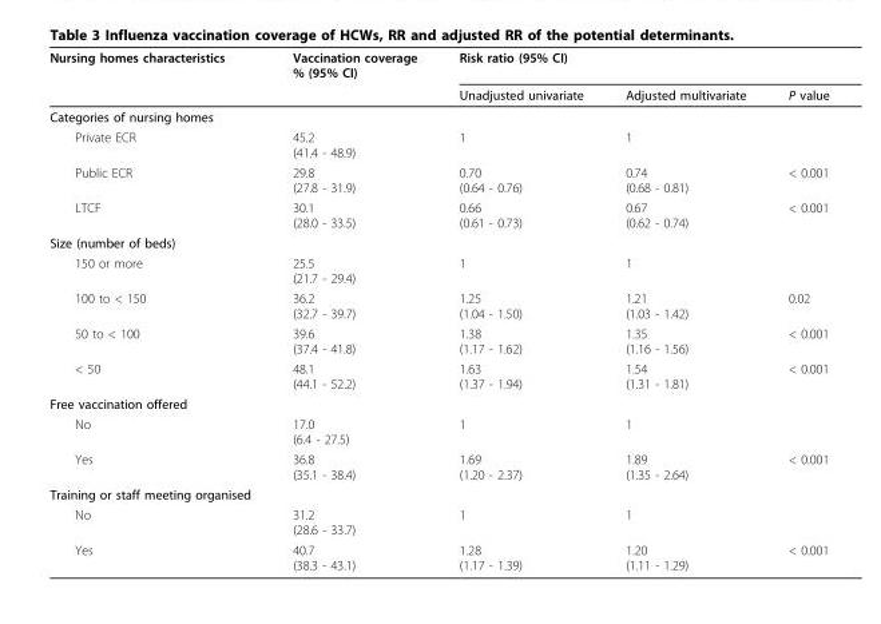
<table><thead><tr><td rowspan="2">Nursing homes characteristics</td><td rowspan="2">Vaccination coverage % (95% CI)</td><td colspan="3">Risk ratio (95% CI)</td></tr><tr><td>Unadjusted univariate</td><td>Adjusted multivariate</td><td>P value</td></tr></thead><tbody><tr><td colspan="5">Categories of nursing homes</td></tr><tr><td>Private ECR</td><td>45.2 (41.4 - 48.9)</td><td>1</td><td>1</td><td></td></tr><tr><td>Public ECR</td><td>29.8 (27.8 - 31.9)</td><td>0.70 (0.64 - 0.76)</td><td>0.74 (0.68 - 0.81)</td><td>&lt; 0.001</td></tr><tr><td>LTCF</td><td>30.1 (28.0 - 33.5)</td><td>0.66 (0.61 - 0.73)</td><td>0.67 (0.62 - 0.74)</td><td>&lt; 0.001</td></tr><tr><td colspan="5">Size (number of beds)</td></tr><tr><td>150 or more</td><td>25.5 (21.7 - 29.4)</td><td>1</td><td>1</td><td></td></tr><tr><td>100 to &lt; 150</td><td>36.2 (32.7 - 39.7)</td><td>1.25 (1.04 - 1.50)</td><td>1.21 (1.03 - 1.42)</td><td>0.02</td></tr><tr><td>50 to &lt; 100</td><td>39.6 (37.4 - 41.8)</td><td>1.38 (1.17 - 1.62)</td><td>1.35 (1.16 - 1.56)</td><td>&lt; 0.001</td></tr><tr><td>&lt; 50</td><td>48.1 (44.1 - 52.2)</td><td>1.63 (1.37 - 1.94)</td><td>1.54 (1.31 - 1.81)</td><td>&lt; 0.001</td></tr><tr><td colspan="5">Free vaccination offered</td></tr><tr><td>No</td><td>17.0 (6.4 - 27.5)</td><td>1</td><td>1</td><td></td></tr><tr><td>Yes</td><td>36.8 (35.1 - 38.4)</td><td>1.69 (1.20 - 2.37)</td><td>1.89 (1.35 - 2.64)</td><td>&lt; 0.001</td></tr><tr><td colspan="5">Training or staff meeting organised</td></tr><tr><td>No</td><td>31.2 (28.6 - 33.7)</td><td>1</td><td>1</td><td></td></tr><tr><td>Yes</td><td>40.7 (38.3 - 43.1)</td><td>1.28 (1.17 - 1.39)</td><td>1.20 (1.11 - 1.29)</td><td>&lt; 0.001</td></tr></tbody></table>